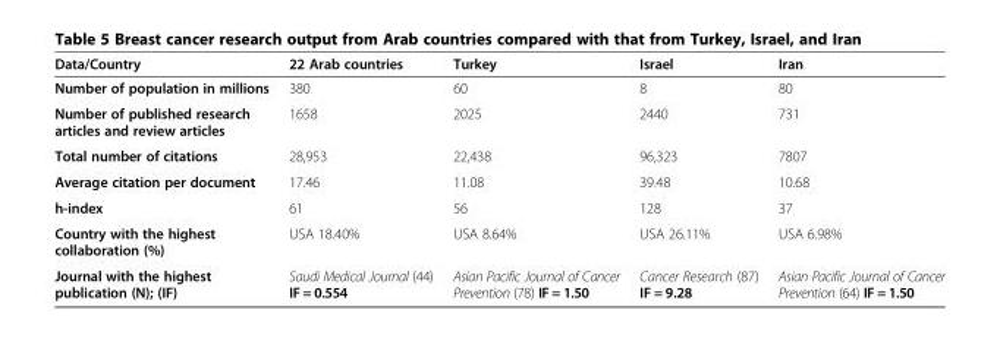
<table><thead><tr><td>Data/Country</td><td>22 Arab countries</td><td>Turkey</td><td>Israel</td><td>Iran</td></tr></thead><tbody><tr><td>Number of population in millions</td><td>380</td><td>60</td><td>8</td><td>80</td></tr><tr><td>Number of published research articles and review articles</td><td>1658</td><td>2025</td><td>2440</td><td>731</td></tr><tr><td>Total number of citations</td><td>28,953</td><td>22,438</td><td>96,323</td><td>7807</td></tr><tr><td>Average citation per document</td><td>17.46</td><td>11.08</td><td>39.48</td><td>10.68</td></tr><tr><td>h-index</td><td>61</td><td>56</td><td>128</td><td>37</td></tr><tr><td>Country with the highest collaboration (%)</td><td>USA 18.40%</td><td>USA 8.64%</td><td>USA 26.11%</td><td>USA 6.98%</td></tr><tr><td>Journal with the highest publication (N); (IF)</td><td>Saudi Medical Journal (44) IF = 0.554</td><td>Asian Pacific Journal of Cancer Prevention (78) IF = 1.50</td><td>Cancer Research (87) IF = 9.28</td><td>Asian Pacific Journal of Cancer Prevention (64) IF = 1.50</td></tr></tbody></table>